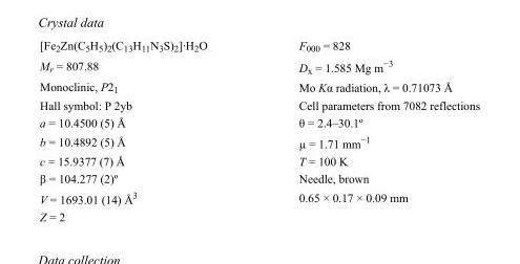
<table><tbody><tr><td>[Fe<sub>2</sub>Zn(C<sub>5</sub>H<sub>5</sub>)<sub>2</sub>(C<sub>13</sub>H<sub>11</sub>N<sub>3</sub>S)<sub>2</sub>]·H<sub>2</sub>O</td><td>F000 = 828</td></tr><tr><td>M<sub>r</sub> = 807.88</td><td>D<sub>x</sub> = 1.585 Mg m<sup>−3</sup></td></tr><tr><td>Monoclinic, P2<sub>1</sub></td><td>Mo Kα radiation, λ = 0.71073 Å</td></tr><tr><td>Hall symbol: P 2yb</td><td>Cell parameters from 7082 reflections</td></tr><tr><td>a = 10.4500 (5) Å</td><td>θ = 2.4–30.1º</td></tr><tr><td>b = 10.4892 (5) Å</td><td>µ = 1.71 mm<sup>−1</sup></td></tr><tr><td>c = 15.9377 (7) Å</td><td>T = 100 K</td></tr><tr><td>β = 104.277 (2)º</td><td>Needle, brown</td></tr><tr><td>V = 1693.01 (14) Å<sup>3</sup></td><td>0.65 × 0.17 × 0.09 mm</td></tr><tr><td>Z = 2</td><td></td></tr></tbody></table>